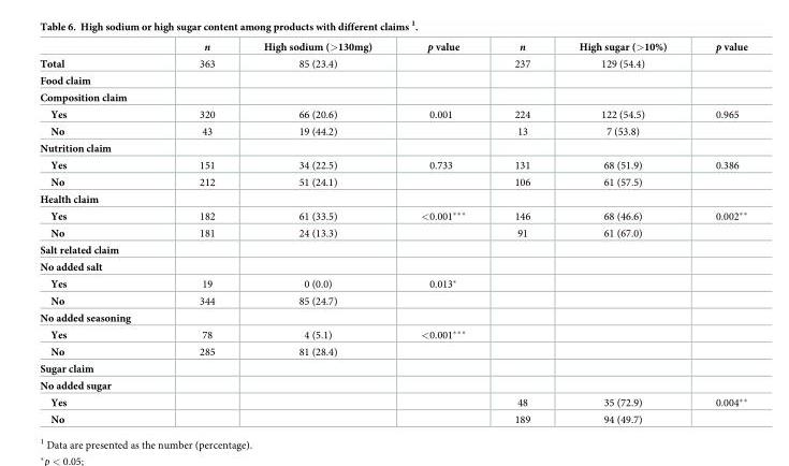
<table><thead><tr><td></td><td>n</td><td>High sodium (&gt;130mg)</td><td>p value</td><td>n</td><td>High sugar (&gt;10%)</td><td>p value</td></tr></thead><tbody><tr><td>Total</td><td>363</td><td>85 (23.4)</td><td></td><td>237</td><td>129 (54.4)</td><td></td></tr><tr><td colspan="7">Food claim</td></tr><tr><td colspan="7">Composition claim</td></tr><tr><td>Yes</td><td>320</td><td>66 (20.6)</td><td>0.001</td><td>224</td><td>122 (54.5)</td><td>0.965</td></tr><tr><td>No</td><td>43</td><td>19 (44.2)</td><td></td><td>13</td><td>7 (53.8)</td><td></td></tr><tr><td colspan="7">Nutrition claim</td></tr><tr><td>Yes</td><td>151</td><td>34 (22.5)</td><td>0.733</td><td>131</td><td>68 (51.9)</td><td>0.386</td></tr><tr><td>No</td><td>212</td><td>51 (24.1)</td><td></td><td>106</td><td>61 (57.5)</td><td></td></tr><tr><td colspan="7">Health claim</td></tr><tr><td>Yes</td><td>182</td><td>61 (33.5)</td><td>&lt;0.001***</td><td>146</td><td>68 (46.6)</td><td>0.002**</td></tr><tr><td>No</td><td>181</td><td>24 (13.3)</td><td></td><td>91</td><td>61 (67.0)</td><td></td></tr><tr><td colspan="7">Salt related claim</td></tr><tr><td colspan="7">No added salt</td></tr><tr><td>Yes</td><td>19</td><td>0 (0.0)</td><td>0.013*</td><td></td><td></td><td></td></tr><tr><td>No</td><td>344</td><td>85 (24.7)</td><td></td><td></td><td></td><td></td></tr><tr><td colspan="7">No added seasoning</td></tr><tr><td>Yes</td><td>78</td><td>4 (5.1)</td><td>&lt;0.001***</td><td></td><td></td><td></td></tr><tr><td>No</td><td>285</td><td>81 (28.4)</td><td></td><td></td><td></td><td></td></tr><tr><td colspan="7">Sugar claim</td></tr><tr><td colspan="7">No added sugar</td></tr><tr><td>Yes</td><td></td><td></td><td></td><td>48</td><td>35 (72.9)</td><td>0.004**</td></tr><tr><td>No</td><td></td><td></td><td></td><td>189</td><td>94 (49.7)</td><td></td></tr></tbody></table>